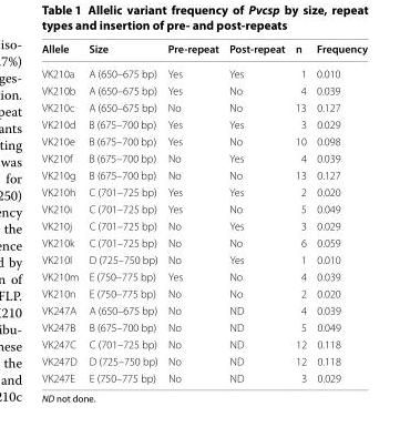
<table><thead><tr><td>Allele</td><td>Size</td><td>Pre-repeat</td><td>Post-repeat</td><td>n</td><td>Frequency</td></tr></thead><tbody><tr><td>VK210a</td><td>A (650–675 bp)</td><td>Yes</td><td>Yes</td><td>1</td><td>0.010</td></tr><tr><td>VK210b</td><td>A (650–675 bp)</td><td>Yes</td><td>No</td><td>4</td><td>0.039</td></tr><tr><td>VK210c</td><td>A (650–675 bp)</td><td>No</td><td>No</td><td>13</td><td>0.127</td></tr><tr><td>VK210d</td><td>B (675–700 bp)</td><td>Yes</td><td>Yes</td><td>3</td><td>0.029</td></tr><tr><td>VK210e</td><td>B (675–700 bp)</td><td>Yes</td><td>No</td><td>10</td><td>0.098</td></tr><tr><td>VK210f</td><td>B (675–700 bp)</td><td>No</td><td>Yes</td><td>4</td><td>0.039</td></tr><tr><td>VK210g</td><td>B (675–700 bp)</td><td>No</td><td>No</td><td>13</td><td>0.127</td></tr><tr><td>VK210h</td><td>C (701–725 bp)</td><td>Yes</td><td>Yes</td><td>2</td><td>0.020</td></tr><tr><td>VK210i</td><td>C (701–725 bp)</td><td>Yes</td><td>No</td><td>5</td><td>0.049</td></tr><tr><td>VK210j</td><td>C (701–725 bp)</td><td>No</td><td>Yes</td><td>3</td><td>0.029</td></tr><tr><td>VK210k</td><td>C (701–725 bp)</td><td>No</td><td>No</td><td>6</td><td>0.059</td></tr><tr><td>VK210l</td><td>D (725–750 bp)</td><td>No</td><td>Yes</td><td>1</td><td>0.010</td></tr><tr><td>VK210m</td><td>E (750–775 bp)</td><td>Yes</td><td>No</td><td>4</td><td>0.039</td></tr><tr><td>VK210n</td><td>E (750–775 bp)</td><td>No</td><td>No</td><td>2</td><td>0.020</td></tr><tr><td>VK247A</td><td>A (650–675 bp)</td><td>No</td><td>ND</td><td>4</td><td>0.039</td></tr><tr><td>VK247B</td><td>B (675–700 bp)</td><td>No</td><td>ND</td><td>5</td><td>0.049</td></tr><tr><td>VK247C</td><td>C (701–725 bp)</td><td>No</td><td>ND</td><td>12</td><td>0.118</td></tr><tr><td>VK247D</td><td>D (725–750 bp)</td><td>No</td><td>ND</td><td>12</td><td>0.118</td></tr><tr><td>VK247E</td><td>E (750–775 bp)</td><td>No</td><td>ND</td><td>3</td><td>0.029</td></tr></tbody></table>